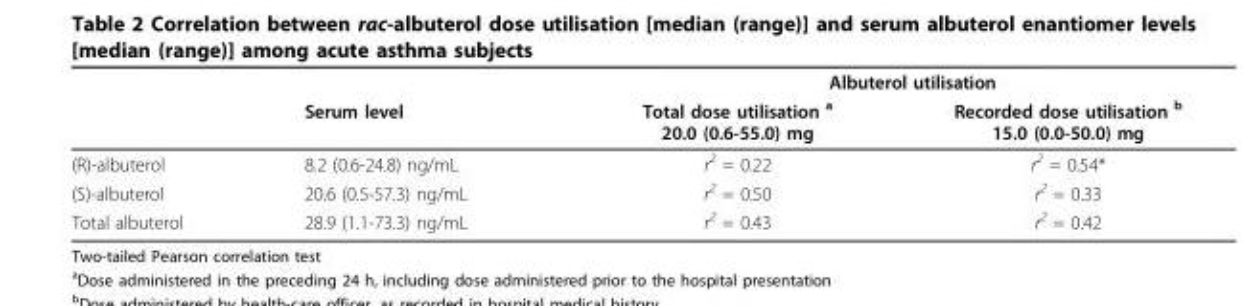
<table><thead><tr><td rowspan="2"></td><td rowspan="2">Serum level</td><td colspan="2">Albuterol utilisation</td></tr><tr><td>Total dose utilisation <sup>a</sup> 20.0 (0.6-55.0) mg</td><td>Recorded dose utilisation <sup>b</sup> 15.0 (0.0-50.0) mg</td></tr></thead><tbody><tr><td>(R)-albuterol</td><td>8.2 (0.6-24.8) ng/mL</td><td>r<sup>2</sup> = 0.22</td><td>r<sup>2</sup> = 0.54*</td></tr><tr><td>(S)-albuterol</td><td>20.6 (0.5-57.3) ng/mL</td><td>r<sup>2</sup> = 0.50</td><td>r<sup>2</sup> = 0.33</td></tr><tr><td>Total albuterol</td><td>28.9 (1.1-73.3) ng/mL</td><td>r<sup>2</sup> = 0.43</td><td>r<sup>2</sup> = 0.42</td></tr></tbody></table>